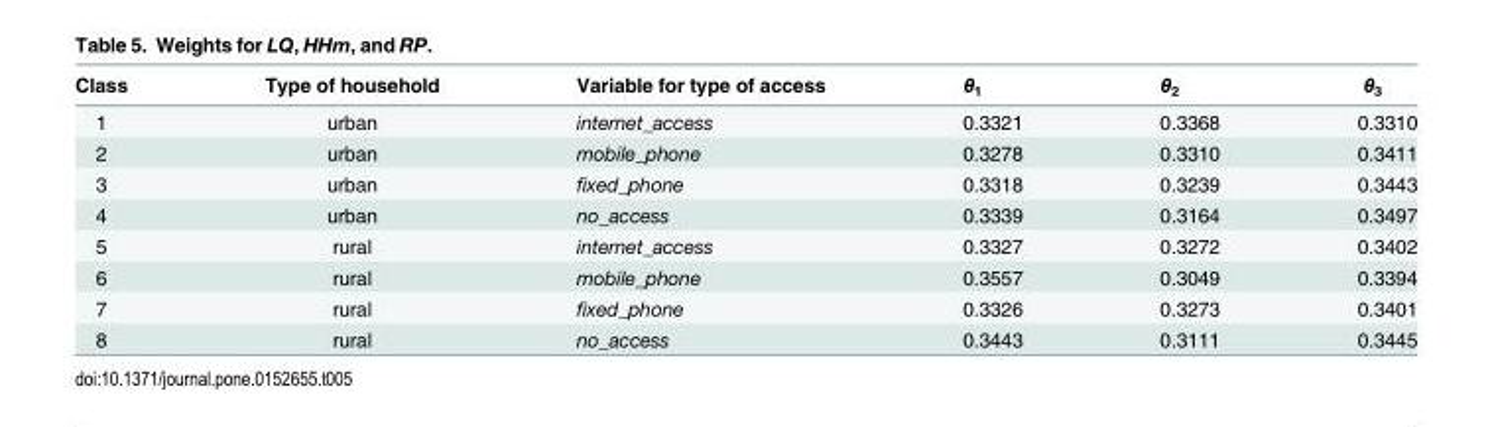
<table><thead><tr><td>Class</td><td>Type of household</td><td>Variable for type of access</td><td>θ<sub>1</sub></td><td>θ<sub>2</sub></td><td>θ<sub>3</sub></td></tr></thead><tbody><tr><td>1</td><td>urban</td><td>internet_access</td><td>0.3321</td><td>0.3368</td><td>0.3310</td></tr><tr><td>2</td><td>urban</td><td>mobile_phone</td><td>0.3278</td><td>0.3310</td><td>0.3411</td></tr><tr><td>3</td><td>urban</td><td>fixed_phone</td><td>0.3318</td><td>0.3239</td><td>0.3443</td></tr><tr><td>4</td><td>urban</td><td>no_access</td><td>0.3339</td><td>0.3164</td><td>0.3497</td></tr><tr><td>5</td><td>rural</td><td>internet_access</td><td>0.3327</td><td>0.3272</td><td>0.3402</td></tr><tr><td>6</td><td>rural</td><td>mobile_phone</td><td>0.3557</td><td>0.3049</td><td>0.3394</td></tr><tr><td>7</td><td>rural</td><td>fixed_phone</td><td>0.3326</td><td>0.3273</td><td>0.3401</td></tr><tr><td>8</td><td>rural</td><td>no_access</td><td>0.3443</td><td>0.3111</td><td>0.3445</td></tr></tbody></table>